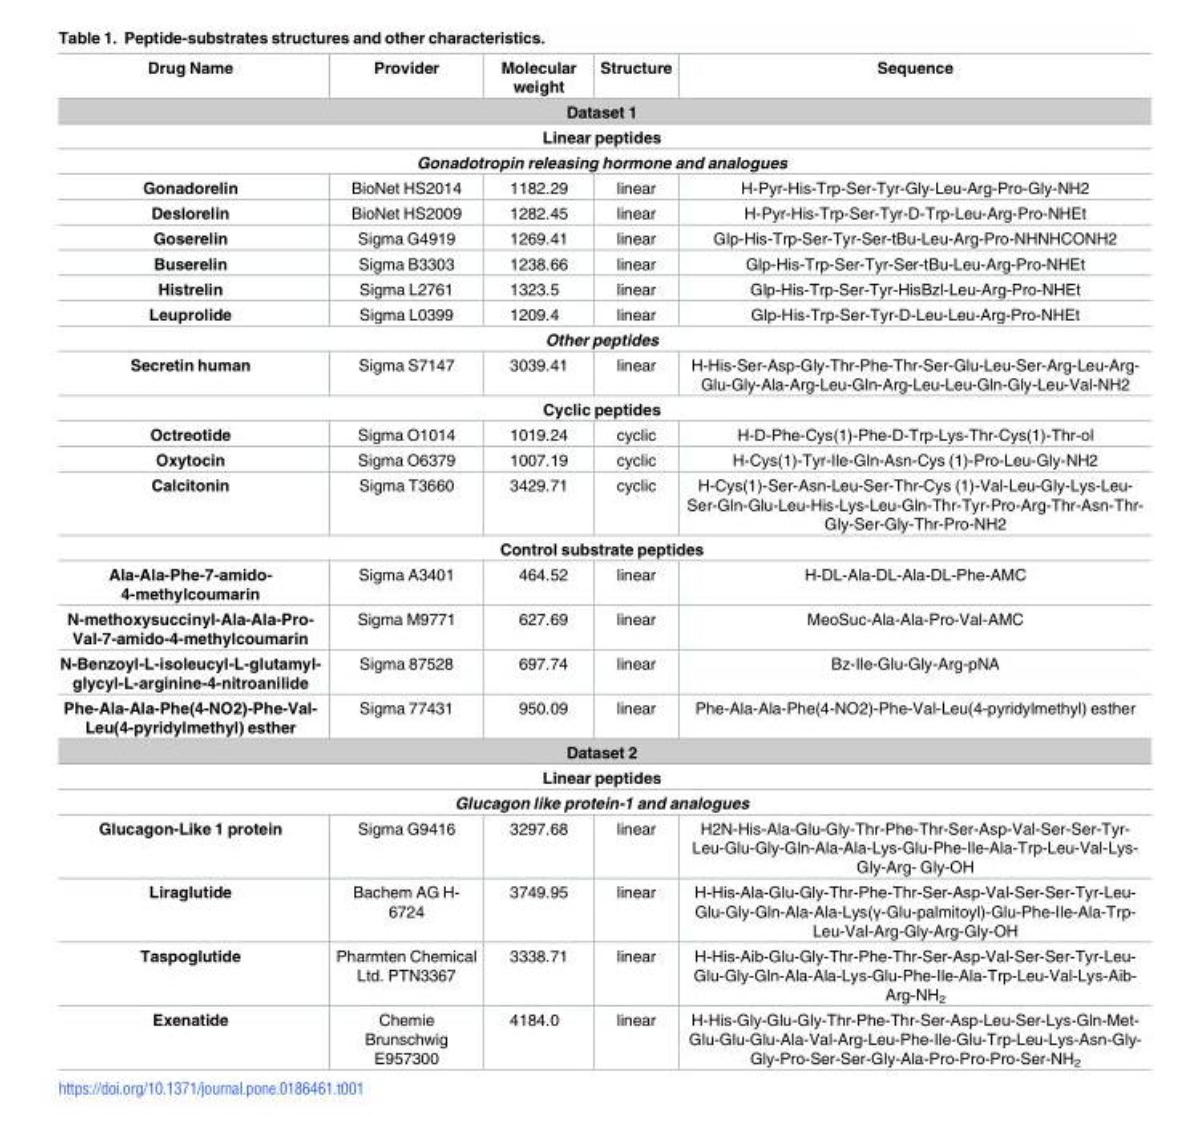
<table><thead><tr><td>Drug Name</td><td>Provider</td><td>Molecular weight</td><td>Structure</td><td>Sequence</td></tr></thead><tbody><tr><td colspan="5">Dataset 1</td></tr><tr><td colspan="5">Linear peptides</td></tr><tr><td colspan="5">Gonadotropin releasing hormone and analogues</td></tr><tr><td>Gonadorelin</td><td>BioNet HS2014</td><td>1182.29</td><td>linear</td><td>H-Pyr-His-Trp-Ser-Tyr-Gly-Leu-Arg-Pro-Gly-NH2</td></tr><tr><td>Deslorelin</td><td>BioNet HS2009</td><td>1282.45</td><td>linear</td><td>H-Pyr-His-Trp-Ser-Tyr-D-Trp-Leu-Arg-Pro-NHEt</td></tr><tr><td>Goserelin</td><td>Sigma G4919</td><td>1269.41</td><td>linear</td><td>Glp-His-Trp-Ser-Tyr-Ser-tBu-Leu-Arg-Pro-NHNHCONH2</td></tr><tr><td>Buserelin</td><td>Sigma B3303</td><td>1238.66</td><td>linear</td><td>Glp-His-Trp-Ser-Tyr-Ser-tBu-Leu-Arg-Pro-NHEt</td></tr><tr><td>Histrelin</td><td>Sigma L2761</td><td>1323.5</td><td>linear</td><td>Glp-His-Trp-Ser-Tyr-HisBzl-Leu-Arg-Pro-NHEt</td></tr><tr><td>Leuprolide</td><td>Sigma L0399</td><td>1209.4</td><td>linear</td><td>Glp-His-Trp-Ser-Tyr-D-Leu-Leu-Arg-Pro-NHEt</td></tr><tr><td colspan="5">Other peptides</td></tr><tr><td>Secretin human</td><td>Sigma S7147</td><td>3039.41</td><td>linear</td><td>H-His-Ser-Asp-Gly-Thr-Phe-Thr-Ser-Glu-Leu-Ser-Arg-Leu-Arg- Glu-Gly-Ala-Arg-Leu-Gln-Arg-Leu-Leu-Gln-Gly-Leu-Val-NH2</td></tr><tr><td colspan="5">Cyclic peptides</td></tr><tr><td>Octreotide</td><td>Sigma O1014</td><td>1019.24</td><td>cyclic</td><td>H-D-Phe-Cys(1)-Phe-D-Trp-Lys-Thr-Cys(1)-Thr-ol</td></tr><tr><td>Oxytocin</td><td>Sigma O6379</td><td>1007.19</td><td>cyclic</td><td>H-Cys(1)-Tyr-Ile-Gln-Asn-Cys (1)-Pro-Leu-Gly-NH2</td></tr><tr><td>Calcitonin</td><td>Sigma T3660</td><td>3429.71</td><td>cyclic</td><td>H-Cys(1)-Ser-Asn-Leu-Ser-Thr-Cys (1)-Val-Leu-Gly-Lys-Leu- Ser-Gln-Glu-Leu-His-Lys-Leu-Gln-Thr-Tyr-Pro-Arg-Thr-Asn-Thr- Gly-Ser-Gly-Thr-Pro-NH2</td></tr><tr><td colspan="5">Control substrate peptides</td></tr><tr><td>Ala-Ala-Phe-7-amido- 4-methylcoumarin</td><td>Sigma A3401</td><td>464.52</td><td>linear</td><td>H-DL-Ala-DL-Ala-DL-Phe-AMC</td></tr><tr><td>N-methoxysuccinyl-Ala-Ala-Pro- Val-7-amido-4-methylcoumarin</td><td>Sigma M9771</td><td>627.69</td><td>linear</td><td>MeoSuc-Ala-Ala-Pro-Val-AMC</td></tr><tr><td>N-Benzoyl-L-isoleucyl-L-glutamyl- glycyl-L-arginine-4-nitroanilide</td><td>Sigma 87528</td><td>697.74</td><td>linear</td><td>Bz-Ile-Glu-Gly-Arg-pNA</td></tr><tr><td>Phe-Ala-Ala-Phe(4-NO2)-Phe-Val- Leu(4-pyridylmethyl) esther</td><td>Sigma 77431</td><td>950.09</td><td>linear</td><td>Phe-Ala-Ala-Phe(4-NO2)-Phe-Val-Leu(4-pyridylmethyl) esther</td></tr><tr><td colspan="5">Dataset 2</td></tr><tr><td colspan="5">Linear peptides</td></tr><tr><td colspan="5">Glucagon like protein-1 and analogues</td></tr><tr><td>Glucagon-Like 1 protein</td><td>Sigma G9416</td><td>3297.68</td><td>linear</td><td>H2N-His-Ala-Glu-Gly-Thr-Phe-Thr-Ser-Asp-Val-Ser-Ser-Tyr- Leu-Glu-Gly-Gln-Ala-Ala-Lys-Glu-Phe-Ile-Ala-Trp-Leu-Val-Lys- Gly-Arg- Gly-OH</td></tr><tr><td>Liraglutide</td><td>Bachem AG H- 6724</td><td>3749.95</td><td>linear</td><td>H-His-Ala-Glu-Gly-Thr-Phe-Thr-Ser-Asp-Val-Ser-Ser-Tyr-Leu- Glu-Gly-Gln-Ala-Ala-Lys(γ-Glu-palmitoyl)-Glu-Phe-Ile-Ala-Trp- Leu-Val-Arg-Gly-Arg-Gly-OH</td></tr><tr><td>Taspoglutide</td><td>Pharmten Chemical Ltd. PTN3367</td><td>3338.71</td><td>linear</td><td>H-His-Aib-Glu-Gly-Thr-Phe-Thr-Ser-Asp-Val-Ser-Ser-Tyr-Leu- Glu-Gly-Gln-Ala-Ala-Lys-Glu-Phe-Ile-Ala-Trp-Leu-Val-Lys-Aib- Arg-NH<sub>2</sub></td></tr><tr><td>Exenatide</td><td>Chemie Brunschwig E957300</td><td>4184.0</td><td>linear</td><td>H-His-Gly-Glu-Gly-Thr-Phe-Thr-Ser-Asp-Leu-Ser-Lys-Gln-Met- Glu-Glu-Glu-Ala-Val-Arg-Leu-Phe-Ile-Glu-Trp-Leu-Lys-Asn-Gly- Gly-Pro-Ser-Ser-Gly-Ala-Pro-Pro-Pro-Ser-NH<sub>2</sub></td></tr></tbody></table>